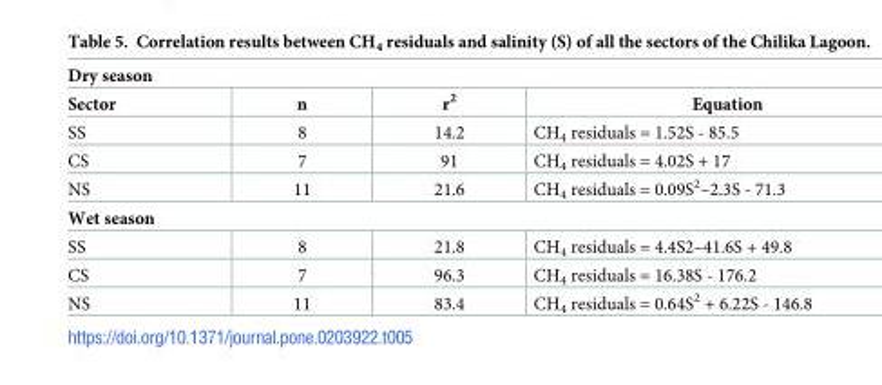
<table><thead><tr><td colspan="4">Dry season</td></tr><tr><td>Sector</td><td>n</td><td>r<sup>2</sup></td><td>Equation</td></tr></thead><tbody><tr><td>SS</td><td>8</td><td>14.2</td><td>CH<sub>4</sub> residuals = 1.52S - 85.5</td></tr><tr><td>CS</td><td>7</td><td>91</td><td>CH<sub>4</sub> residuals = 4.02S + 17</td></tr><tr><td>NS</td><td>11</td><td>21.6</td><td>CH<sub>4</sub> residuals = 0.09S<sup>2</sup>–2.3S - 71.3</td></tr><tr><td colspan="4">Wet season</td></tr><tr><td>SS</td><td>8</td><td>21.8</td><td>CH<sub>4</sub> residuals = 4.4S2–41.6S + 49.8</td></tr><tr><td>CS</td><td>7</td><td>96.3</td><td>CH<sub>4</sub> residuals = 16.38S - 176.2</td></tr><tr><td>NS</td><td>11</td><td>83.4</td><td>CH<sub>4</sub> residuals = 0.64S<sup>2</sup> + 6.22S - 146.8</td></tr></tbody></table>